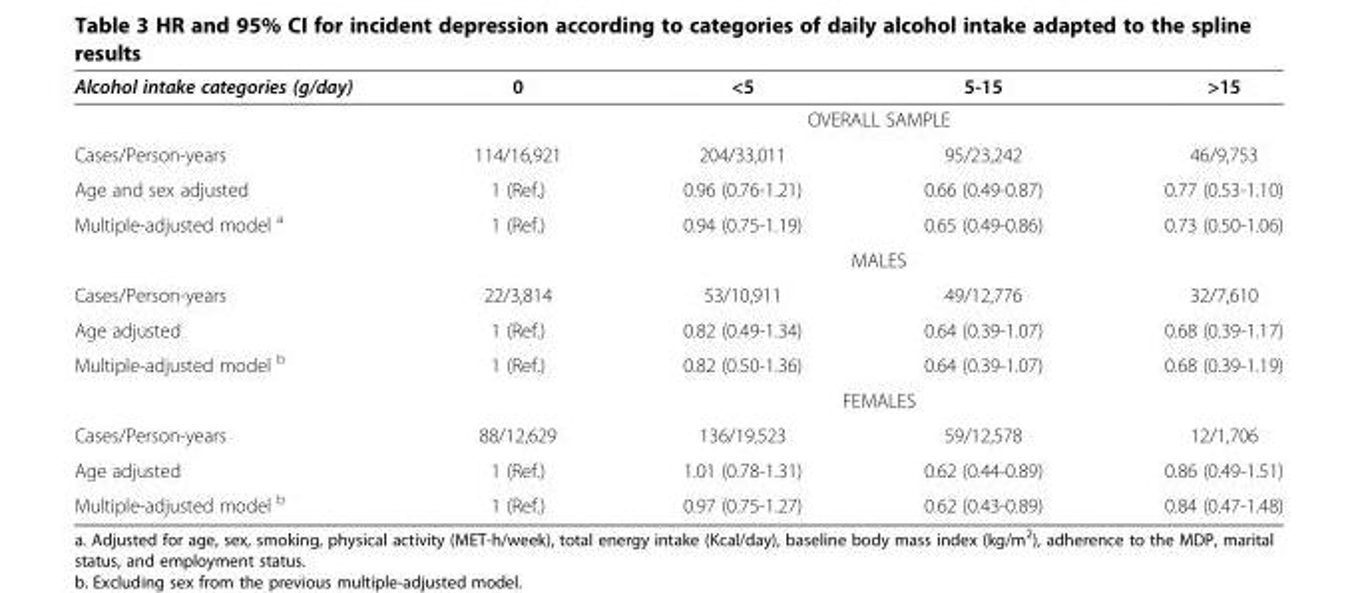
<table><thead><tr><td>Alcohol intake categories (g/day)</td><td>0</td><td>&lt;5</td><td>5-15</td><td>&gt;15</td></tr></thead><tbody><tr><td></td><td colspan="4">OVERALL SAMPLE</td></tr><tr><td>Cases/Person-years</td><td>114/16,921</td><td>204/33,011</td><td>95/23,242</td><td>46/9,753</td></tr><tr><td>Age and sex adjusted</td><td>1 (Ref.)</td><td>0.96 (0.76-1.21)</td><td>0.66 (0.49-0.87)</td><td>0.77 (0.53-1.10)</td></tr><tr><td rowspan="2">Multiple-adjusted model <sup>a</sup></td><td>1 (Ref.)</td><td>0.94 (0.75-1.19)</td><td>0.65 (0.49-0.86)</td><td>0.73 (0.50-1.06)</td></tr><tr><td colspan="4">MALES</td></tr><tr><td>Cases/Person-years</td><td>22/3,814</td><td>53/10,911</td><td>49/12,776</td><td>32/7,610</td></tr><tr><td>Age adjusted</td><td>1 (Ref.)</td><td>0.82 (0.49-1.34)</td><td>0.64 (0.39-1.07)</td><td>0.68 (0.39-1.17)</td></tr><tr><td rowspan="2">Multiple-adjusted model <sup>b</sup></td><td>1 (Ref.)</td><td>0.82 (0.50-1.36)</td><td>0.64 (0.39-1.07)</td><td>0.68 (0.39-1.19)</td></tr><tr><td colspan="4">FEMALES</td></tr><tr><td>Cases/Person-years</td><td>88/12,629</td><td>136/19,523</td><td>59/12,578</td><td>12/1,706</td></tr><tr><td>Age adjusted</td><td>1 (Ref.)</td><td>1.01 (0.78-1.31)</td><td>0.62 (0.44-0.89)</td><td>0.86 (0.49-1.51)</td></tr><tr><td>Multiple-adjusted model <sup>b</sup></td><td>1 (Ref.)</td><td>0.97 (0.75-1.27)</td><td>0.62 (0.43-0.89)</td><td>0.84 (0.47-1.48)</td></tr></tbody></table>